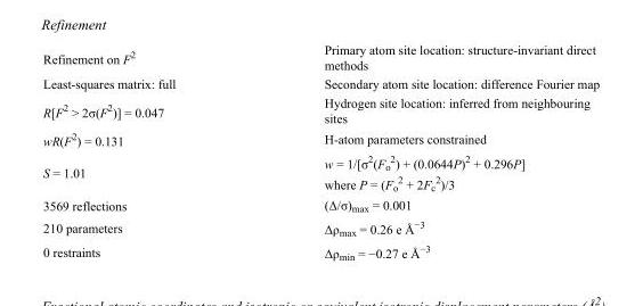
<table><tbody><tr><td>Refinement on F<sup>2</sup></td><td>Primary atom site location: structure-invariant direct methods</td></tr><tr><td>Least-squares matrix: full</td><td>Secondary atom site location: difference Fourier map</td></tr><tr><td>R[F<sup>2</sup> &gt; 2σ(F<sup>2</sup>)] = 0.047</td><td>Hydrogen site location: inferred from neighbouring sites</td></tr><tr><td>wR(F<sup>2</sup>) = 0.131</td><td>H-atom parameters constrained</td></tr><tr><td>S = 1.01</td><td>w = 1/[σ<sup>2</sup>(F<sub>o</sub> <sup>2</sup>) + (0.0644P)<sup>2</sup> + 0.296P] where P = (F<sub>o</sub> <sup>2</sup> + 2F<sub>c</sub> <sup>2</sup>)/3</td></tr><tr><td>3569 reflections</td><td>(Δ/σ)<sub>max</sub> = 0.001</td></tr><tr><td>210 parameters</td><td>Δρ<sub>max</sub> = 0.26 e Å<sup>−3</sup></td></tr><tr><td>0 restraints</td><td>Δρ<sub>min</sub> = −0.27 e Å<sup>−3</sup></td></tr></tbody></table>